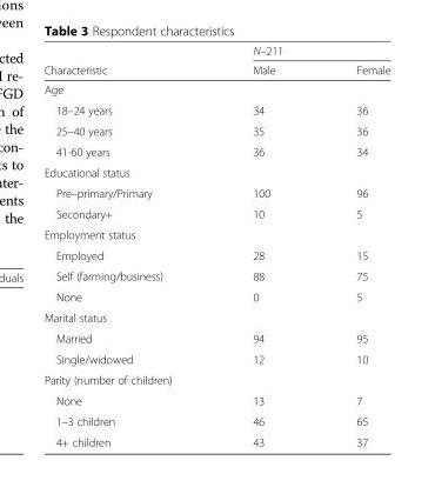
<table><thead><tr><td rowspan="2">Characteristic</td><td colspan="2">N–211</td></tr><tr><td>Male</td><td>Female</td></tr></thead><tbody><tr><td colspan="3">Age</td></tr><tr><td>18–24 years</td><td>34</td><td>36</td></tr><tr><td>25–40 years</td><td>35</td><td>36</td></tr><tr><td>41-60 years</td><td>36</td><td>34</td></tr><tr><td colspan="3">Educational status</td></tr><tr><td>Pre–primary/Primary</td><td>100</td><td>96</td></tr><tr><td>Secondary+</td><td>10</td><td>5</td></tr><tr><td colspan="3">Employment status</td></tr><tr><td>Employed</td><td>28</td><td>15</td></tr><tr><td>Self (farming/business)</td><td>88</td><td>75</td></tr><tr><td>None</td><td>0</td><td>5</td></tr><tr><td colspan="3">Marital status</td></tr><tr><td>Married</td><td>94</td><td>95</td></tr><tr><td>Single/widowed</td><td>12</td><td>10</td></tr><tr><td colspan="3">Parity (number of children)</td></tr><tr><td>None</td><td>13</td><td>7</td></tr><tr><td>1–3 children</td><td>46</td><td>65</td></tr><tr><td>4+ children</td><td>43</td><td>37</td></tr></tbody></table>